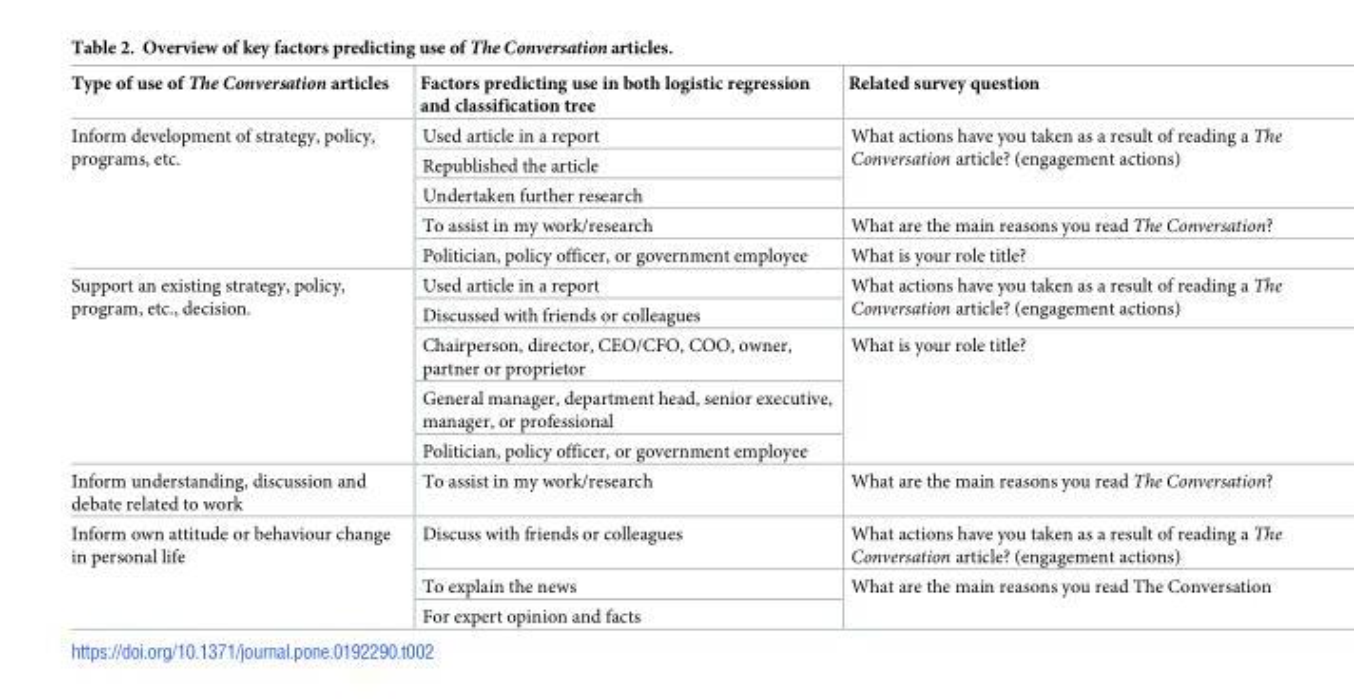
<table><thead><tr><td>Type of use of The Conversation articles</td><td>Factors predicting use in both logistic regression and classification tree</td><td>Related survey question</td></tr></thead><tbody><tr><td rowspan="5">Inform development of strategy, policy, programs, etc.</td><td>Used article in a report</td><td rowspan="3">What actions have you taken as a result of reading a The Conversation article? (engagement actions)</td></tr><tr><td>Republished the article</td></tr><tr><td>Undertaken further research</td></tr><tr><td>To assist in my work/research</td><td>What are the main reasons you read The Conversation?</td></tr><tr><td>Politician, policy officer, or government employee</td><td>What is your role title?</td></tr><tr><td rowspan="5">Support an existing strategy, policy, program, etc., decision.</td><td>Used article in a report</td><td rowspan="2">What actions have you taken as a result of reading a The Conversation article? (engagement actions)</td></tr><tr><td>Discussed with friends or colleagues</td></tr><tr><td>Chairperson, director, CEO/CFO, COO, owner, partner or proprietor</td><td rowspan="3">What is your role title?</td></tr><tr><td>General manager, department head, senior executive, manager, or professional</td></tr><tr><td>Politician, policy officer, or government employee</td></tr><tr><td>Inform understanding, discussion and debate related to work</td><td>To assist in my work/research</td><td>What are the main reasons you read The Conversation?</td></tr><tr><td rowspan="3">Inform own attitude or behaviour change in personal life</td><td>Discuss with friends or colleagues</td><td>What actions have you taken as a result of reading a The Conversation article? (engagement actions)</td></tr><tr><td>To explain the news</td><td rowspan="2">What are the main reasons you read The Conversation</td></tr><tr><td>For expert opinion and facts</td></tr></tbody></table>